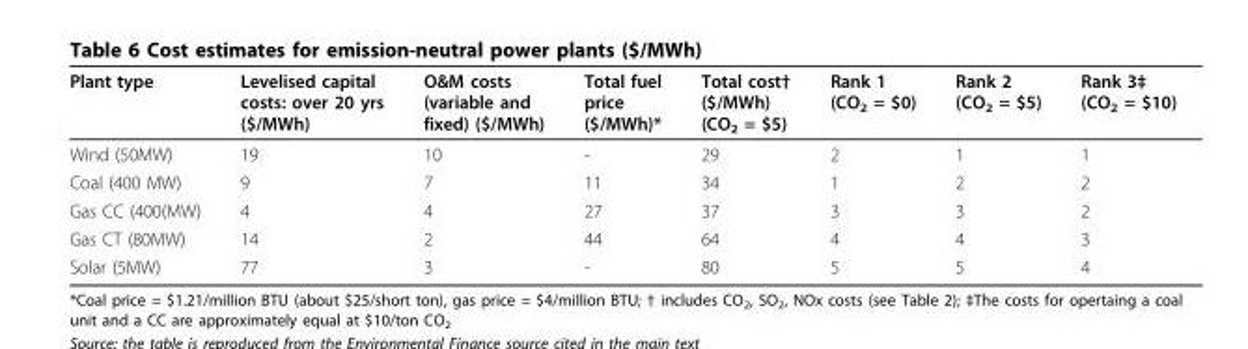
<table><thead><tr><td>Plant type</td><td>Levelised capital costs: over 20 yrs ($/MWh)</td><td>O&amp;M costs (variable and fixed) ($/MWh)</td><td>Total fuel price ($/MWh)*</td><td>Total cost† ($/MWh) (CO<sub>2</sub> = $5)</td><td>Rank 1 (CO<sub>2</sub> = $0)</td><td>Rank 2 (CO<sub>2</sub> = $5)</td><td>Rank 3‡ (CO<sub>2</sub> = $10)</td></tr></thead><tbody><tr><td>Wind (50MW)</td><td>19</td><td>10</td><td>-</td><td>29</td><td>2</td><td>1</td><td>1</td></tr><tr><td>Coal (400 MW)</td><td>9</td><td>7</td><td>11</td><td>34</td><td>1</td><td>2</td><td>2</td></tr><tr><td>Gas CC (400(MW)</td><td>4</td><td>4</td><td>27</td><td>37</td><td>3</td><td>3</td><td>2</td></tr><tr><td>Gas CT (80MW)</td><td>14</td><td>2</td><td>44</td><td>64</td><td>4</td><td>4</td><td>3</td></tr><tr><td>Solar (5MW)</td><td>77</td><td>3</td><td>-</td><td>80</td><td>5</td><td>5</td><td>4</td></tr></tbody></table>